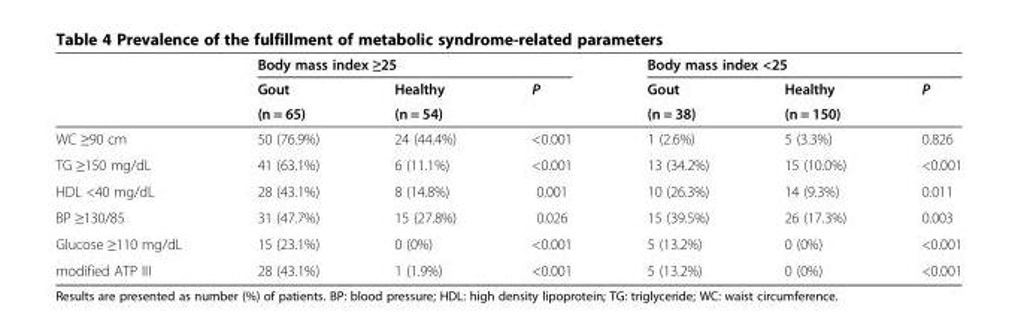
<table><thead><tr><td rowspan="3"></td><td colspan="3">Body mass index ≥25</td><td colspan="3">Body mass index &lt;25</td></tr><tr><td rowspan="2">Gout (n = 65)</td><td rowspan="2">Healthy (n = 54)</td><td rowspan="2">P</td><td rowspan="2">Gout (n = 38)</td><td rowspan="2">Healthy (n = 150)</td><td rowspan="2">P</td></tr><tr></tr></thead><tbody><tr><td>WC ≥90 cm</td><td>50 (76.9%)</td><td>24 (44.4%)</td><td>&lt;0.001</td><td>1 (2.6%)</td><td>5 (3.3%)</td><td>0.826</td></tr><tr><td>TG ≥150 mg/dL</td><td>41 (63.1%)</td><td>6 (11.1%)</td><td>&lt;0.001</td><td>13 (34.2%)</td><td>15 (10.0%)</td><td>&lt;0.001</td></tr><tr><td>HDL &lt;40 mg/dL</td><td>28 (43.1%)</td><td>8 (14.8%)</td><td>0.001</td><td>10 (26.3%)</td><td>14 (9.3%)</td><td>0.011</td></tr><tr><td>BP ≥130/85</td><td>31 (47.7%)</td><td>15 (27.8%)</td><td>0.026</td><td>15 (39.5%)</td><td>26 (17.3%)</td><td>0.003</td></tr><tr><td>Glucose ≥110 mg/dL</td><td>15 (23.1%)</td><td>0 (0%)</td><td>&lt;0.001</td><td>5 (13.2%)</td><td>0 (0%)</td><td>&lt;0.001</td></tr><tr><td>modified ATP III</td><td>28 (43.1%)</td><td>1 (1.9%)</td><td>&lt;0.001</td><td>5 (13.2%)</td><td>0 (0%)</td><td>&lt;0.001</td></tr></tbody></table>